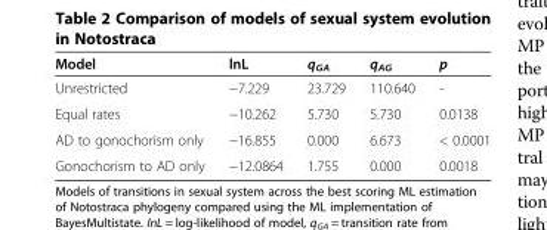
<table><thead><tr><td>Model</td><td>lnL</td><td>q<sub>GA</sub></td><td>q<sub>AG</sub></td><td>p</td></tr></thead><tbody><tr><td>Unrestricted</td><td>−7.229</td><td>23.729</td><td>110.640</td><td>-</td></tr><tr><td>Equal rates</td><td>−10.262</td><td>5.730</td><td>5.730</td><td>0.0138</td></tr><tr><td>AD to gonochorism only</td><td>−16.855</td><td>0.000</td><td>6.673</td><td>&lt; 0.0001</td></tr><tr><td>Gonochorism to AD only</td><td>−12.0864</td><td>1.755</td><td>0.000</td><td>0.0018</td></tr></tbody></table>